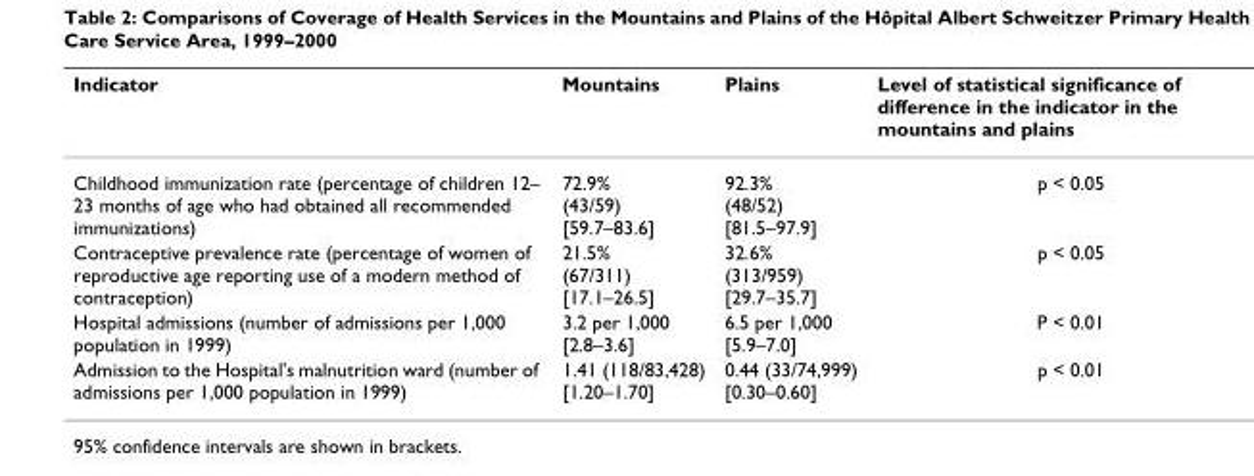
<table><thead><tr><td>Indicator</td><td>Mountains</td><td>Plains</td><td>Level of statistical significance of difference in the indicator in the mountains and plains</td></tr></thead><tbody><tr><td>Childhood immunization rate (percentage of children 12– 23 months of age who had obtained all recommended immunizations)</td><td>72.9% (43/59) [59.7–83.6]</td><td>92.3% (48/52) [81.5–97.9]</td><td>p &lt; 0.05</td></tr><tr><td>Contraceptive prevalence rate (percentage of women of reproductive age reporting use of a modern method of contraception)</td><td>21.5% (67/311) [17.1–26.5]</td><td>32.6% (313/959) [29.7–35.7]</td><td>p &lt; 0.05</td></tr><tr><td>Hospital admissions (number of admissions per 1,000 population in 1999)</td><td>3.2 per 1,000 [2.8–3.6]</td><td>6.5 per 1,000 [5.9–7.0]</td><td>P &lt; 0.01</td></tr><tr><td>Admission to the Hospital&#x27;s malnutrition ward (number of admissions per 1,000 population in 1999)</td><td>1.41 (118/83,428) [1.20–1.70]</td><td>0.44 (33/74,999) [0.30–0.60]</td><td>p &lt; 0.01</td></tr></tbody></table>